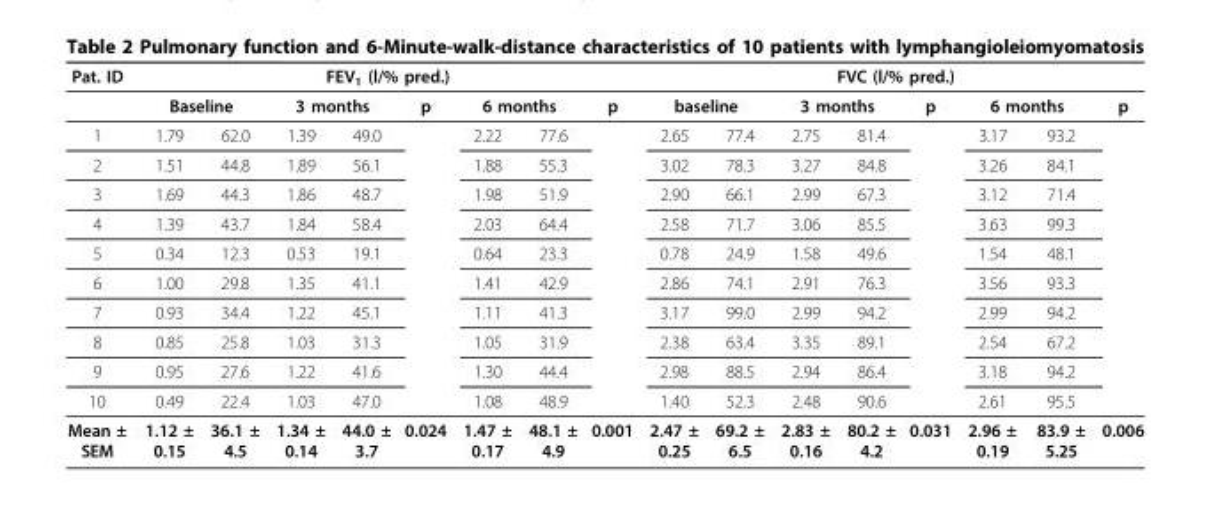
<table><thead><tr><td rowspan="3">Pat. ID 1</td><td colspan="8">FEV<sub>1</sub> (l/% pred.)</td><td colspan="8">FVC (l/% pred.)</td></tr><tr><td colspan="2">Baseline</td><td colspan="2">3 months</td><td rowspan="2">p</td><td colspan="2">6 months</td><td rowspan="2">p</td><td colspan="2">baseline</td><td colspan="2">3 months</td><td rowspan="2">p</td><td colspan="2">6 months</td><td rowspan="2">p</td></tr><tr><td>1.79</td><td>62.0</td><td>1.39</td><td>49.0</td><td>2.22</td><td>77.6</td><td>2.65</td><td>77.4</td><td>2.75</td><td>81.4</td><td>3.17</td><td>93.2</td></tr></thead><tbody><tr><td>2</td><td>1.51</td><td>44.8</td><td>1.89</td><td>56.1</td><td></td><td>1.88</td><td>55.3</td><td></td><td>3.02</td><td>78.3</td><td>3.27</td><td>84.8</td><td></td><td>3.26</td><td>84.1</td><td></td></tr><tr><td>3</td><td>1.69</td><td>44.3</td><td>1.86</td><td>48.7</td><td></td><td>1.98</td><td>51.9</td><td></td><td>2.90</td><td>66.1</td><td>2.99</td><td>67.3</td><td></td><td>3.12</td><td>71.4</td><td></td></tr><tr><td>4</td><td>1.39</td><td>43.7</td><td>1.84</td><td>58.4</td><td></td><td>2.03</td><td>64.4</td><td></td><td>2.58</td><td>71.7</td><td>3.06</td><td>85.5</td><td></td><td>3.63</td><td>99.3</td><td></td></tr><tr><td>5</td><td>0.34</td><td>12.3</td><td>0.53</td><td>19.1</td><td></td><td>0.64</td><td>23.3</td><td></td><td>0.78</td><td>24.9</td><td>1.58</td><td>49.6</td><td></td><td>1.54</td><td>48.1</td><td></td></tr><tr><td>6</td><td>1.00</td><td>29.8</td><td>1.35</td><td>41.1</td><td></td><td>1.41</td><td>42.9</td><td></td><td>2.86</td><td>74.1</td><td>2.91</td><td>76.3</td><td></td><td>3.56</td><td>93.3</td><td></td></tr><tr><td>7</td><td>0.93</td><td>34.4</td><td>1.22</td><td>45.1</td><td></td><td>1.11</td><td>41.3</td><td></td><td>3.17</td><td>99.0</td><td>2.99</td><td>94.2</td><td></td><td>2.99</td><td>94.2</td><td></td></tr><tr><td>8</td><td>0.85</td><td>25.8</td><td>1.03</td><td>31.3</td><td></td><td>1.05</td><td>31.9</td><td></td><td>2.38</td><td>63.4</td><td>3.35</td><td>89.1</td><td></td><td>2.54</td><td>67.2</td><td></td></tr><tr><td>9</td><td>0.95</td><td>27.6</td><td>1.22</td><td>41.6</td><td></td><td>1.30</td><td>44.4</td><td></td><td>2.98</td><td>88.5</td><td>2.94</td><td>86.4</td><td></td><td>3.18</td><td>94.2</td><td></td></tr><tr><td>10</td><td>0.49</td><td>22.4</td><td>1.03</td><td>47.0</td><td></td><td>1.08</td><td>48.9</td><td></td><td>1.40</td><td>52.3</td><td>2.48</td><td>90.6</td><td></td><td>2.61</td><td>95.5</td><td></td></tr><tr><td>Mean ± SEM</td><td>1.12 ± 0.15</td><td>36.1 ± 4.5</td><td>1.34 ± 0.14</td><td>44.0 ± 3.7</td><td>0.024</td><td>1.47 ± 0.17</td><td>48.1 ± 4.9</td><td>0.001</td><td>2.47 ± 0.25</td><td>69.2 ± 6.5</td><td>2.83 ± 0.16</td><td>80.2 ± 4.2</td><td>0.031</td><td>2.96 ± 0.19</td><td>83.9 ± 5.25</td><td>0.006</td></tr></tbody></table>